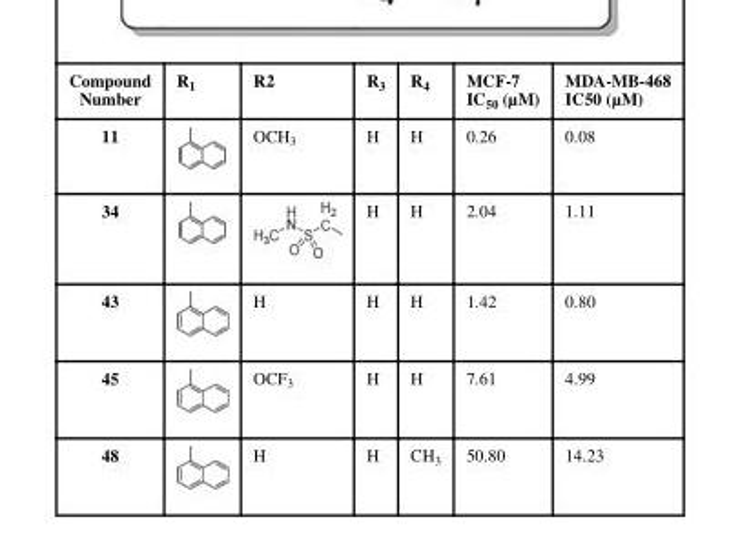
<table><thead><tr><td>Compound Number</td><td>R<sub>1</sub></td><td>R2</td><td>R<sub>3</sub></td><td>R<sub>4</sub></td><td>MCF-7 IC<sub>50</sub> (µM)</td><td>MDA-MB-468 IC50 (µM)</td></tr></thead><tbody><tr><td>11</td><td></td><td>OCH<sub>3</sub></td><td>H</td><td>H</td><td>0.26</td><td>0.08</td></tr><tr><td>34</td><td></td><td></td><td>H</td><td>H</td><td>2.04</td><td>1.11</td></tr><tr><td>43</td><td></td><td>H</td><td>H</td><td>H</td><td>1.42</td><td>0.80</td></tr><tr><td>45</td><td></td><td>OCF<sub>3</sub></td><td>H</td><td>H</td><td>7.61</td><td>4.99</td></tr><tr><td>48</td><td></td><td>H</td><td>H</td><td>CH<sub>3</sub></td><td>50.80</td><td>14.23</td></tr></tbody></table>